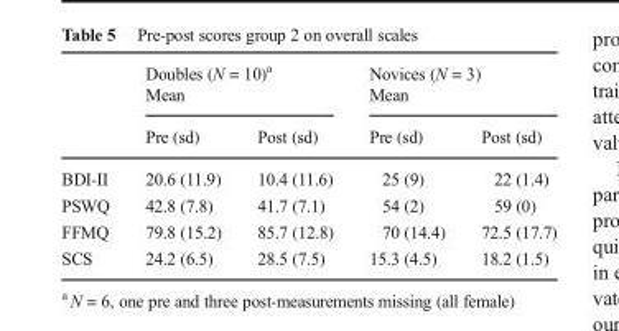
<table><thead><tr><td rowspan="2"></td><td colspan="2">Doubles (N = 10)<sup>a</sup> Mean</td><td colspan="2">Novices (N = 3) Mean</td></tr><tr><td>Pre (sd)</td><td>Post (sd)</td><td>Pre (sd)</td><td>Post (sd)</td></tr></thead><tbody><tr><td>BDI-II</td><td>20.6 (11.9)</td><td>10.4 (11.6)</td><td>25 (9)</td><td>22 (1.4)</td></tr><tr><td>PSWQ</td><td>42.8 (7.8)</td><td>41.7 (7.1)</td><td>54 (2)</td><td>59 (0)</td></tr><tr><td>FFMQ</td><td>79.8 (15.2)</td><td>85.7 (12.8)</td><td>70 (14.4)</td><td>72.5 (17.7)</td></tr><tr><td>SCS</td><td>24.2 (6.5)</td><td>28.5 (7.5)</td><td>15.3 (4.5)</td><td>18.2 (1.5)</td></tr></tbody></table>